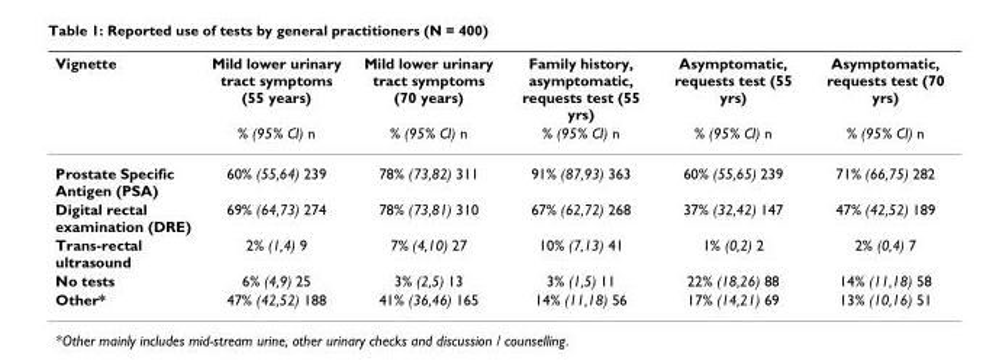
<table><thead><tr><td rowspan="2">Vignette</td><td rowspan="2">Mild lower urinary tract symptoms (55 years) % (95% CI) n</td><td rowspan="2">Mild lower urinary tract symptoms (70 years) % (95% CI) n</td><td rowspan="2">Family history, asymptomatic, requests test (55 yrs) % (95% CI) n</td><td rowspan="2">Asymptomatic, requests test (55 yrs) % (95% CI) n</td><td rowspan="2">Asymptomatic, requests test (70 yrs) % (95% CI) n</td></tr><tr></tr></thead><tbody><tr><td>Prostate Specific Antigen (PSA)</td><td>60% (55,64) 239</td><td>78% (73,82) 311</td><td>91% (87,93) 363</td><td>60% (55,65) 239</td><td>71% (66,75) 282</td></tr><tr><td>Digital rectal examination (DRE)</td><td>69% (64,73) 274</td><td>78% (73,81) 310</td><td>67% (62,72) 268</td><td>37% (32,42) 147</td><td>47% (42,52) 189</td></tr><tr><td>Trans-rectal ultrasound</td><td>2% (1,4) 9</td><td>7% (4,10) 27</td><td>10% (7,13) 41</td><td>1% (0,2) 2</td><td>2% (0,4) 7</td></tr><tr><td>No tests</td><td>6% (4,9) 25</td><td>3% (2,5) 13</td><td>3% (1,5) 11</td><td>22% (18,26) 88</td><td>14% (11,18) 58</td></tr><tr><td>Other*</td><td>47% (42,52) 188</td><td>41% (36,46) 165</td><td>14% (11,18) 56</td><td>17% (14,21) 69</td><td>13% (10,16) 51</td></tr></tbody></table>